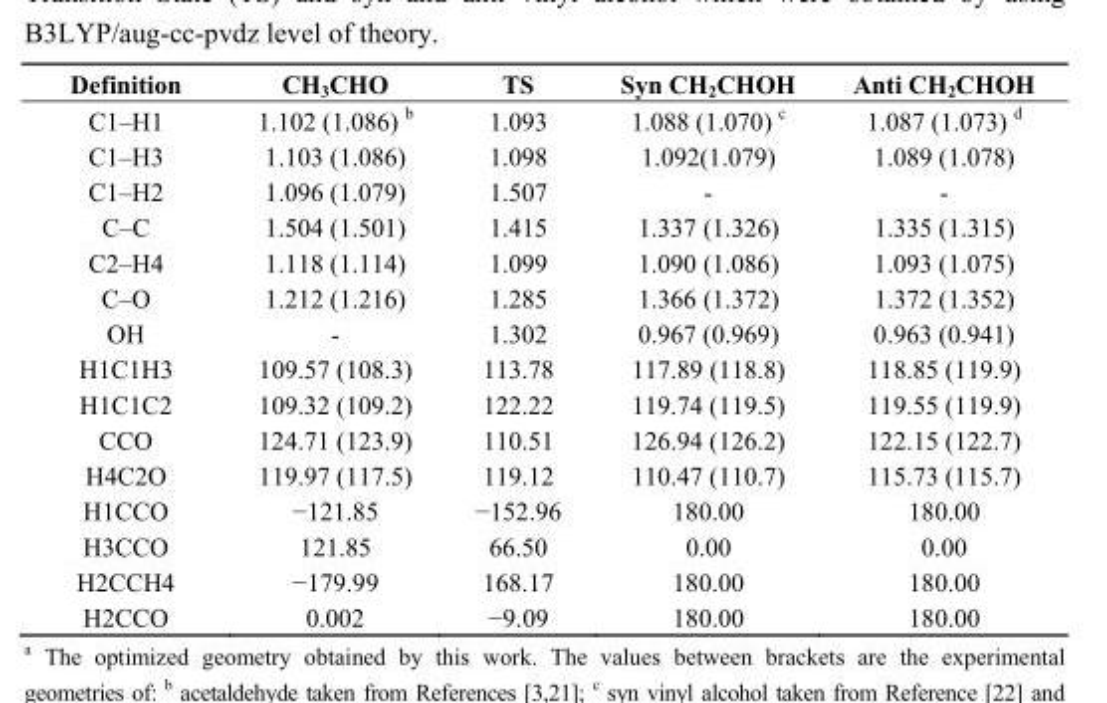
<table><thead><tr><td>Definition</td><td>CH<sub>3</sub>CHO</td><td>TS</td><td>Syn CH<sub>2</sub>CHOH</td><td>Anti CH<sub>2</sub>CHOH</td></tr></thead><tbody><tr><td>C1–H1</td><td>1.102 (1.086) b</td><td>1.093</td><td>1.088 (1.070) c</td><td>1.087 (1.073) d</td></tr><tr><td>C1–H3</td><td>1.103 (1.086)</td><td>1.098</td><td>1.092(1.079)</td><td>1.089 (1.078)</td></tr><tr><td>C1–H2</td><td>1.096 (1.079)</td><td>1.507</td><td>-</td><td>-</td></tr><tr><td>C–C</td><td>1.504 (1.501)</td><td>1.415</td><td>1.337 (1.326)</td><td>1.335 (1.315)</td></tr><tr><td>C2–H4</td><td>1.118 (1.114)</td><td>1.099</td><td>1.090 (1.086)</td><td>1.093 (1.075)</td></tr><tr><td>C–O</td><td>1.212 (1.216)</td><td>1.285</td><td>1.366 (1.372)</td><td>1.372 (1.352)</td></tr><tr><td>OH</td><td>-</td><td>1.302</td><td>0.967 (0.969)</td><td>0.963 (0.941)</td></tr><tr><td>H1C1H3</td><td>109.57 (108.3)</td><td>113.78</td><td>117.89 (118.8)</td><td>118.85 (119.9)</td></tr><tr><td>H1C1C2</td><td>109.32 (109.2)</td><td>122.22</td><td>119.74 (119.5)</td><td>119.55 (119.9)</td></tr><tr><td>CCO</td><td>124.71 (123.9)</td><td>110.51</td><td>126.94 (126.2)</td><td>122.15 (122.7)</td></tr><tr><td>H4C2O</td><td>119.97 (117.5)</td><td>119.12</td><td>110.47 (110.7)</td><td>115.73 (115.7)</td></tr><tr><td>H1CCO</td><td>−121.85</td><td>−152.96</td><td>180.00</td><td>180.00</td></tr><tr><td>H3CCO</td><td>121.85</td><td>66.50</td><td>0.00</td><td>0.00</td></tr><tr><td>H2CCH4</td><td>−179.99</td><td>168.17</td><td>180.00</td><td>180.00</td></tr><tr><td>H2CCO</td><td>0.002</td><td>−9.09</td><td>180.00</td><td>180.00</td></tr></tbody></table>